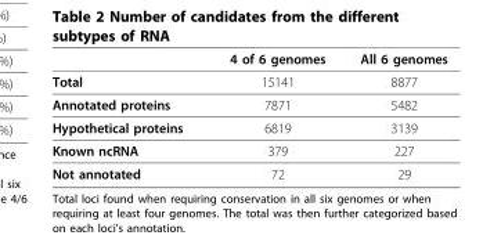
<table><thead><tr><td></td><td>4 of 6 genomes</td><td>All 6 genomes</td></tr></thead><tbody><tr><td>Total</td><td>15141</td><td>8877</td></tr><tr><td>Annotated proteins</td><td>7871</td><td>5482</td></tr><tr><td>Hypothetical proteins</td><td>6819</td><td>3139</td></tr><tr><td>Known ncRNA</td><td>379</td><td>227</td></tr><tr><td>Not annotated</td><td>72</td><td>29</td></tr></tbody></table>